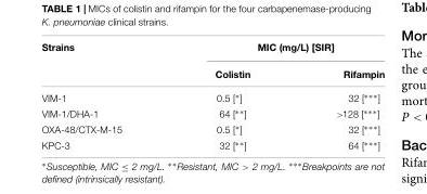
<table><thead><tr><td rowspan="2">Strains</td><td colspan="2">MIC (mg/L) [SIR]</td></tr><tr><td>Colistin</td><td>Rifampin</td></tr></thead><tbody><tr><td>VIM-1</td><td>0.5 [∗]</td><td>32 [∗∗∗]</td></tr><tr><td>VIM-1/DHA-1</td><td>64 [∗∗]</td><td>&gt;128 [∗∗∗]</td></tr><tr><td>OXA-48/CTX-M-15</td><td>0.5 [∗]</td><td>32 [∗∗∗]</td></tr><tr><td>KPC-3</td><td>32 [∗∗]</td><td>64 [∗∗∗]</td></tr></tbody></table>